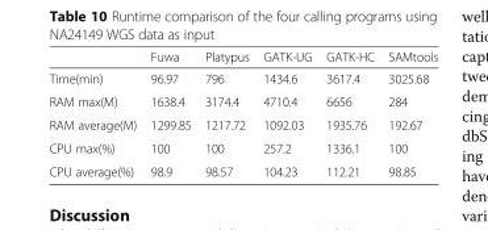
<table><thead><tr><td></td><td>Fuwa</td><td>Platypus</td><td>GATK-UG</td><td>GATK-HC</td><td>SAMtools</td></tr></thead><tbody><tr><td>Time(min)</td><td>96.97</td><td>796</td><td>1434.6</td><td>3617.4</td><td>3025.68</td></tr><tr><td>RAM max(M)</td><td>1638.4</td><td>3174.4</td><td>4710.4</td><td>6656</td><td>284</td></tr><tr><td>RAM average(M)</td><td>1299.85</td><td>1217.72</td><td>1092.03</td><td>1935.76</td><td>192.67</td></tr><tr><td>CPU max(%)</td><td>100</td><td>100</td><td>257.2</td><td>1336.1</td><td>100</td></tr><tr><td>CPU average(%)</td><td>98.9</td><td>98.57</td><td>104.23</td><td>112.21</td><td>98.85</td></tr></tbody></table>